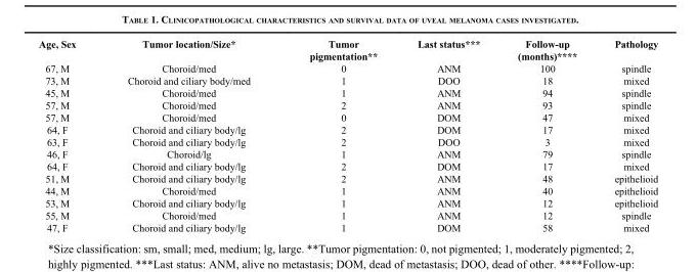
<table><thead><tr><td>Age, Sex</td><td>Tumor location/Size*</td><td>Tumor pigmentation**</td><td>Last status***</td><td>Follow-up (months)****</td><td>Pathology</td></tr></thead><tbody><tr><td>67, M</td><td>Choroid/med</td><td>0</td><td>ANM</td><td>100</td><td>spindle</td></tr><tr><td>73, M</td><td>Choroid and ciliary body/med</td><td>1</td><td>DOO</td><td>18</td><td>mixed</td></tr><tr><td>45, M</td><td>Choroid/med</td><td>1</td><td>ANM</td><td>94</td><td>spindle</td></tr><tr><td>57, M</td><td>Choroid/med</td><td>2</td><td>ANM</td><td>93</td><td>spindle</td></tr><tr><td>57, M</td><td>Choroid/med</td><td>0</td><td>DOM</td><td>47</td><td>mixed</td></tr><tr><td>64, F</td><td>Choroid and ciliary body/lg</td><td>2</td><td>DOM</td><td>17</td><td>mixed</td></tr><tr><td>63, F</td><td>Choroid and ciliary body/lg</td><td>2</td><td>DOO</td><td>3</td><td>mixed</td></tr><tr><td>46, F</td><td>Choroid/lg</td><td>1</td><td>ANM</td><td>79</td><td>spindle</td></tr><tr><td>64, F</td><td>Choroid and ciliary body/lg</td><td>2</td><td>DOM</td><td>17</td><td>mixed</td></tr><tr><td>51, M</td><td>Choroid and ciliary body/lg</td><td>2</td><td>ANM</td><td>48</td><td>epithelioid</td></tr><tr><td>44, M</td><td>Choroid/med</td><td>1</td><td>ANM</td><td>40</td><td>epithelioid</td></tr><tr><td>53, M</td><td>Choroid and ciliary body/lg</td><td>1</td><td>ANM</td><td>12</td><td>epithelioid</td></tr><tr><td>55, M</td><td>Choroid/med</td><td>1</td><td>ANM</td><td>12</td><td>spindle</td></tr><tr><td>47, F</td><td>Choroid and ciliary body/lg</td><td>1</td><td>DOM</td><td>58</td><td>mixed</td></tr></tbody></table>